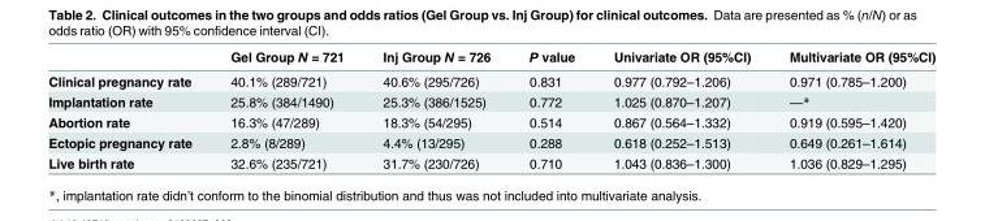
<table><thead><tr><td></td><td>Gel Group N = 721</td><td>Inj Group N = 726</td><td>P value</td><td>Univariate OR (95%CI)</td><td>Multivariate OR (95%CI)</td></tr></thead><tbody><tr><td>Clinical pregnancy rate</td><td>40.1% (289/721)</td><td>40.6% (295/726)</td><td>0.831</td><td>0.977 (0.792–1.206)</td><td>0.971 (0.785–1.200)</td></tr><tr><td>Implantation rate</td><td>25.8% (384/1490)</td><td>25.3% (386/1525)</td><td>0.772</td><td>1.025 (0.870–1.207)</td><td>—*</td></tr><tr><td>Abortion rate</td><td>16.3% (47/289)</td><td>18.3% (54/295)</td><td>0.514</td><td>0.867 (0.564–1.332)</td><td>0.919 (0.595–1.420)</td></tr><tr><td>Ectopic pregnancy rate</td><td>2.8% (8/289)</td><td>4.4% (13/295)</td><td>0.288</td><td>0.618 (0.252–1.513)</td><td>0.649 (0.261–1.614)</td></tr><tr><td>Live birth rate</td><td>32.6% (235/721)</td><td>31.7% (230/726)</td><td>0.710</td><td>1.043 (0.836–1.300)</td><td>1.036 (0.829–1.295)</td></tr></tbody></table>